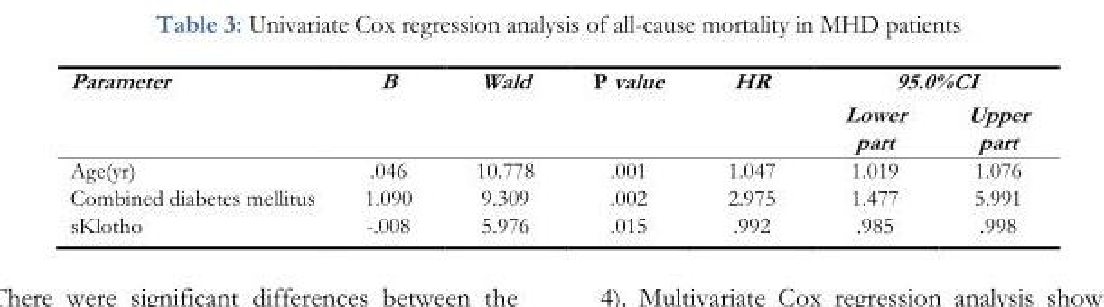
<table><thead><tr><td rowspan="2">Parameter</td><td rowspan="2">B</td><td rowspan="2">Wald</td><td rowspan="2">P value</td><td rowspan="2">HR</td><td colspan="2">95.0%CI</td></tr><tr><td>Lower part</td><td>Upper part</td></tr></thead><tbody><tr><td>Age(yr)</td><td>.046</td><td>10.778</td><td>.001</td><td>1.047</td><td>1.019</td><td>1.076</td></tr><tr><td>Combined diabetes mellitus</td><td>1.090</td><td>9.309</td><td>.002</td><td>2.975</td><td>1.477</td><td>5.991</td></tr><tr><td>sKlotho</td><td>-.008</td><td>5.976</td><td>.015</td><td>.992</td><td>.985</td><td>.998</td></tr></tbody></table>